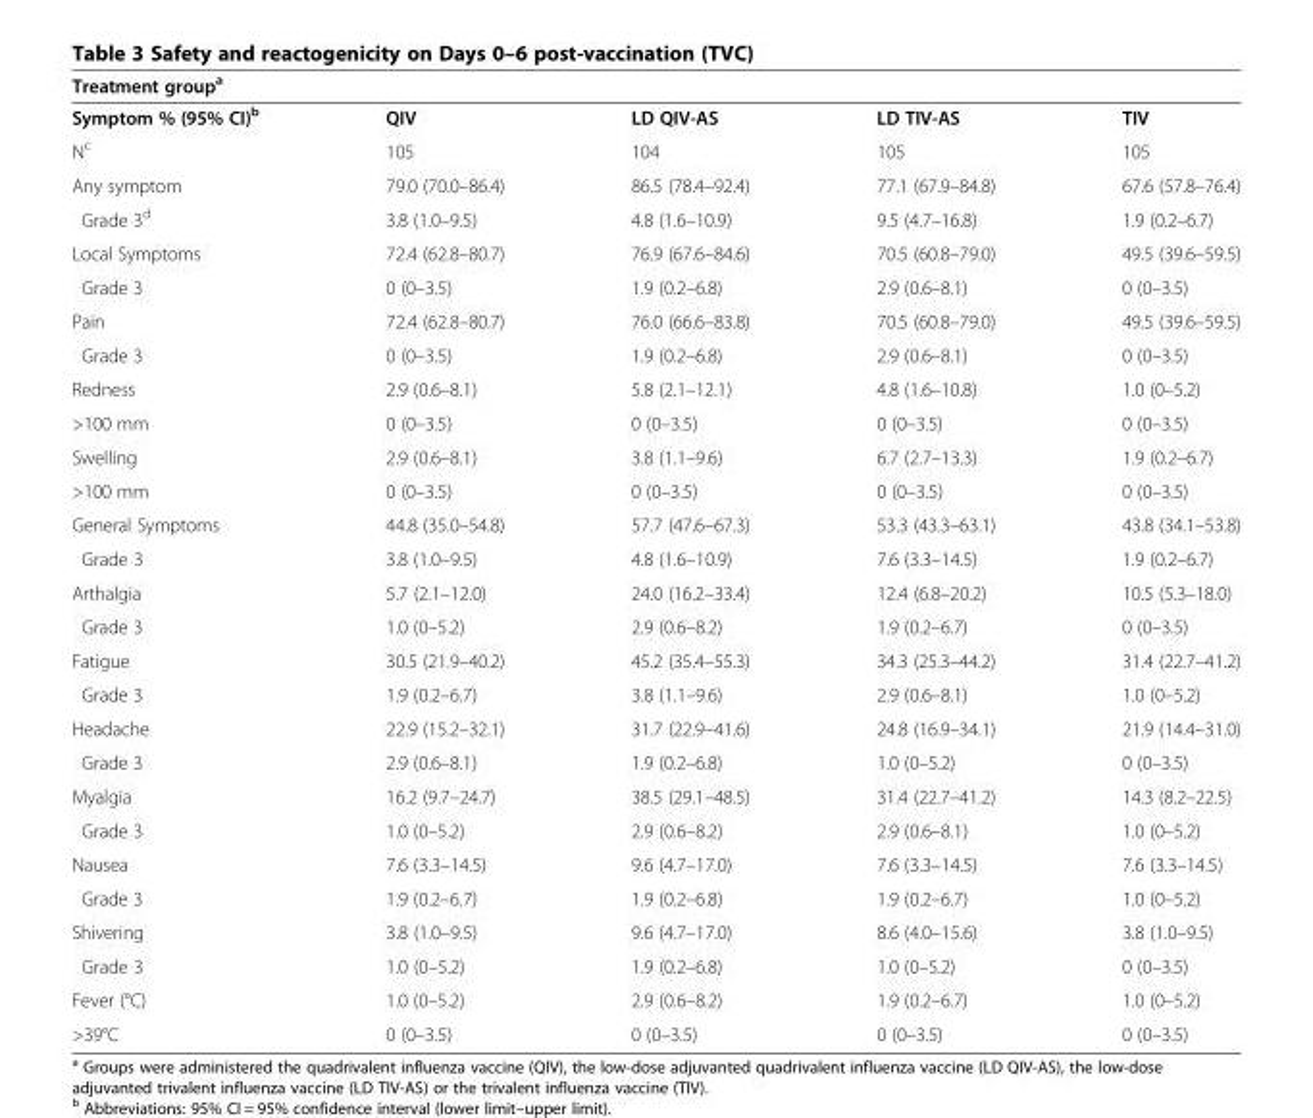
<table><thead><tr><td colspan="5">Treatment group<sup>a</sup></td></tr><tr><td>Symptom % (95% CI)<sup>b</sup></td><td>QIV</td><td>LD QIV-AS</td><td>LD TIV-AS</td><td>TIV</td></tr></thead><tbody><tr><td>N<sup>c</sup></td><td>105</td><td>104</td><td>105</td><td>105</td></tr><tr><td>Any symptom</td><td>79.0 (70.0–86.4)</td><td>86.5 (78.4–92.4)</td><td>77.1 (67.9–84.8)</td><td>67.6 (57.8–76.4)</td></tr><tr><td>Grade 3<sup>d</sup></td><td>3.8 (1.0–9.5)</td><td>4.8 (1.6–10.9)</td><td>9.5 (4.7–16.8)</td><td>1.9 (0.2–6.7)</td></tr><tr><td>Local Symptoms</td><td>72.4 (62.8–80.7)</td><td>76.9 (67.6–84.6)</td><td>70.5 (60.8–79.0)</td><td>49.5 (39.6–59.5)</td></tr><tr><td>Grade 3</td><td>0 (0–3.5)</td><td>1.9 (0.2–6.8)</td><td>2.9 (0.6–8.1)</td><td>0 (0–3.5)</td></tr><tr><td>Pain</td><td>72.4 (62.8–80.7)</td><td>76.0 (66.6–83.8)</td><td>70.5 (60.8–79.0)</td><td>49.5 (39.6–59.5)</td></tr><tr><td>Grade 3</td><td>0 (0–3.5)</td><td>1.9 (0.2–6.8)</td><td>2.9 (0.6–8.1)</td><td>0 (0–3.5)</td></tr><tr><td>Redness</td><td>2.9 (0.6–8.1)</td><td>5.8 (2.1–12.1)</td><td>4.8 (1.6–10.8)</td><td>1.0 (0–5.2)</td></tr><tr><td>&gt;100 mm</td><td>0 (0–3.5)</td><td>0 (0–3.5)</td><td>0 (0–3.5)</td><td>0 (0–3.5)</td></tr><tr><td>Swelling</td><td>2.9 (0.6–8.1)</td><td>3.8 (1.1–9.6)</td><td>6.7 (2.7–13.3)</td><td>1.9 (0.2–6.7)</td></tr><tr><td>&gt;100 mm</td><td>0 (0–3.5)</td><td>0 (0–3.5)</td><td>0 (0–3.5)</td><td>0 (0–3.5)</td></tr><tr><td>General Symptoms</td><td>44.8 (35.0–54.8)</td><td>57.7 (47.6–67.3)</td><td>53.3 (43.3–63.1)</td><td>43.8 (34.1–53.8)</td></tr><tr><td>Grade 3</td><td>3.8 (1.0–9.5)</td><td>4.8 (1.6–10.9)</td><td>7.6 (3.3–14.5)</td><td>1.9 (0.2–6.7)</td></tr><tr><td>Arthalgia</td><td>5.7 (2.1–12.0)</td><td>24.0 (16.2–33.4)</td><td>12.4 (6.8–20.2)</td><td>10.5 (5.3–18.0)</td></tr><tr><td>Grade 3</td><td>1.0 (0–5.2)</td><td>2.9 (0.6–8.2)</td><td>1.9 (0.2–6.7)</td><td>0 (0–3.5)</td></tr><tr><td>Fatigue</td><td>30.5 (21.9–40.2)</td><td>45.2 (35.4–55.3)</td><td>34.3 (25.3–44.2)</td><td>31.4 (22.7–41.2)</td></tr><tr><td>Grade 3</td><td>1.9 (0.2–6.7)</td><td>3.8 (1.1–9.6)</td><td>2.9 (0.6–8.1)</td><td>1.0 (0–5.2)</td></tr><tr><td>Headache</td><td>22.9 (15.2–32.1)</td><td>31.7 (22.9–41.6)</td><td>24.8 (16.9–34.1)</td><td>21.9 (14.4–31.0)</td></tr><tr><td>Grade 3</td><td>2.9 (0.6–8.1)</td><td>1.9 (0.2–6.8)</td><td>1.0 (0–5.2)</td><td>0 (0–3.5)</td></tr><tr><td>Myalgia</td><td>16.2 (9.7–24.7)</td><td>38.5 (29.1–48.5)</td><td>31.4 (22.7–41.2)</td><td>14.3 (8.2–22.5)</td></tr><tr><td>Grade 3</td><td>1.0 (0–5.2)</td><td>2.9 (0.6–8.2)</td><td>2.9 (0.6–8.1)</td><td>1.0 (0–5.2)</td></tr><tr><td>Nausea</td><td>7.6 (3.3–14.5)</td><td>9.6 (4.7–17.0)</td><td>7.6 (3.3–14.5)</td><td>7.6 (3.3–14.5)</td></tr><tr><td>Grade 3</td><td>1.9 (0.2–6.7)</td><td>1.9 (0.2–6.8)</td><td>1.9 (0.2–6.7)</td><td>1.0 (0–5.2)</td></tr><tr><td>Shivering</td><td>3.8 (1.0–9.5)</td><td>9.6 (4.7–17.0)</td><td>8.6 (4.0–15.6)</td><td>3.8 (1.0–9.5)</td></tr><tr><td>Grade 3</td><td>1.0 (0–5.2)</td><td>1.9 (0.2–6.8)</td><td>1.0 (0–5.2)</td><td>0 (0–3.5)</td></tr><tr><td>Fever (°C)</td><td>1.0 (0–5.2)</td><td>2.9 (0.6–8.2)</td><td>1.9 (0.2–6.7)</td><td>1.0 (0–5.2)</td></tr><tr><td>&gt;39°C</td><td>0 (0–3.5)</td><td>0 (0–3.5)</td><td>0 (0–3.5)</td><td>0 (0–3.5)</td></tr></tbody></table>